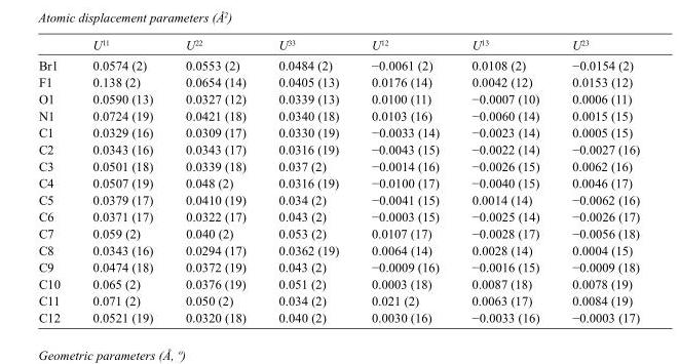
<table><thead><tr><td></td><td>U<sup>11</sup></td><td>U<sup>22</sup></td><td>U<sup>33</sup></td><td>U<sup>12</sup></td><td>U<sup>13</sup></td><td>U<sup>23</sup></td></tr></thead><tbody><tr><td>Br1</td><td>0.0574 (2)</td><td>0.0553 (2)</td><td>0.0484 (2)</td><td>−0.0061 (2)</td><td>0.0108 (2)</td><td>−0.0154 (2)</td></tr><tr><td>F1</td><td>0.138 (2)</td><td>0.0654 (14)</td><td>0.0405 (13)</td><td>0.0176 (14)</td><td>0.0042 (12)</td><td>0.0153 (12)</td></tr><tr><td>O1</td><td>0.0590 (13)</td><td>0.0327 (12)</td><td>0.0339 (13)</td><td>0.0100 (11)</td><td>−0.0007 (10)</td><td>0.0006 (11)</td></tr><tr><td>N1</td><td>0.0724 (19)</td><td>0.0421 (18)</td><td>0.0340 (18)</td><td>0.0103 (16)</td><td>−0.0060 (14)</td><td>0.0015 (15)</td></tr><tr><td>C1</td><td>0.0329 (16)</td><td>0.0309 (17)</td><td>0.0330 (19)</td><td>−0.0033 (14)</td><td>−0.0023 (14)</td><td>0.0005 (15)</td></tr><tr><td>C2</td><td>0.0343 (16)</td><td>0.0343 (17)</td><td>0.0316 (19)</td><td>−0.0043 (15)</td><td>−0.0022 (14)</td><td>−0.0027 (16)</td></tr><tr><td>C3</td><td>0.0501 (18)</td><td>0.0339 (18)</td><td>0.037 (2)</td><td>−0.0014 (16)</td><td>−0.0026 (15)</td><td>0.0062 (16)</td></tr><tr><td>C4</td><td>0.0507 (19)</td><td>0.048 (2)</td><td>0.0316 (19)</td><td>−0.0100 (17)</td><td>−0.0040 (15)</td><td>0.0046 (17)</td></tr><tr><td>C5</td><td>0.0379 (17)</td><td>0.0410 (19)</td><td>0.034 (2)</td><td>−0.0041 (15)</td><td>0.0014 (14)</td><td>−0.0062 (16)</td></tr><tr><td>C6</td><td>0.0371 (17)</td><td>0.0322 (17)</td><td>0.043 (2)</td><td>−0.0003 (15)</td><td>−0.0025 (14)</td><td>−0.0026 (17)</td></tr><tr><td>C7</td><td>0.059 (2)</td><td>0.040 (2)</td><td>0.053 (2)</td><td>0.0107 (17)</td><td>−0.0028 (17)</td><td>−0.0056 (18)</td></tr><tr><td>C8</td><td>0.0343 (16)</td><td>0.0294 (17)</td><td>0.0362 (19)</td><td>0.0064 (14)</td><td>0.0028 (14)</td><td>0.0004 (15)</td></tr><tr><td>C9</td><td>0.0474 (18)</td><td>0.0372 (19)</td><td>0.043 (2)</td><td>−0.0009 (16)</td><td>−0.0016 (15)</td><td>−0.0009 (18)</td></tr><tr><td>C10</td><td>0.065 (2)</td><td>0.0376 (19)</td><td>0.051 (2)</td><td>0.0003 (18)</td><td>0.0087 (18)</td><td>0.0078 (19)</td></tr><tr><td>C11</td><td>0.071 (2)</td><td>0.050 (2)</td><td>0.034 (2)</td><td>0.021 (2)</td><td>0.0063 (17)</td><td>0.0084 (19)</td></tr><tr><td>C12</td><td>0.0521 (19)</td><td>0.0320 (18)</td><td>0.040 (2)</td><td>0.0030 (16)</td><td>−0.0033 (16)</td><td>−0.0003 (17)</td></tr></tbody></table>